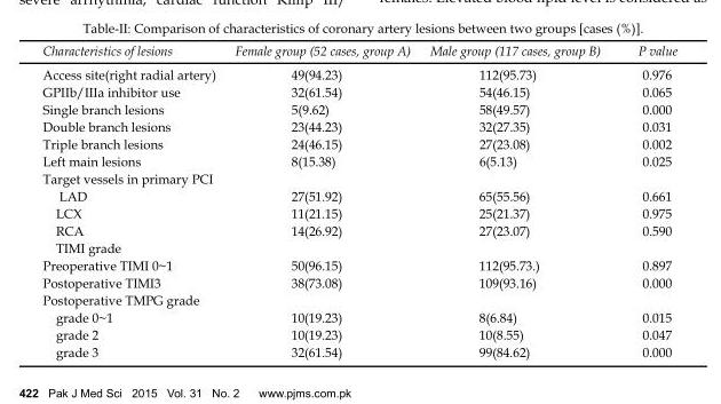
<table><thead><tr><td>Characteristics of lesions</td><td>Female group (52 cases, group A)</td><td>Male group (117 cases, group B)</td><td>P value</td></tr></thead><tbody><tr><td>Access site(right radial artery)</td><td>49(94.23)</td><td>112(95.73)</td><td>0.976</td></tr><tr><td>GPIIb/IIIa inhibitor use</td><td>32(61.54)</td><td>54(46.15)</td><td>0.065</td></tr><tr><td>Single branch lesions</td><td>5(9.62)</td><td>58(49.57)</td><td>0.000</td></tr><tr><td>Double branch lesions</td><td>23(44.23)</td><td>32(27.35)</td><td>0.031</td></tr><tr><td>Triple branch lesions</td><td>24(46.15)</td><td>27(23.08)</td><td>0.002</td></tr><tr><td>Left main lesions</td><td>8(15.38)</td><td>6(5.13)</td><td>0.025</td></tr><tr><td colspan="4">Target vessels in primary PCI</td></tr><tr><td>LAD</td><td>27(51.92)</td><td>65(55.56)</td><td>0.661</td></tr><tr><td>LCX</td><td>11(21.15)</td><td>25(21.37)</td><td>0.975</td></tr><tr><td>RCA</td><td>14(26.92)</td><td>27(23.07)</td><td>0.590</td></tr><tr><td colspan="4">TIMI grade</td></tr><tr><td>Preoperative TIMI 0~1</td><td>50(96.15)</td><td>112(95.73.)</td><td>0.897</td></tr><tr><td>Postoperative TIMI3</td><td>38(73.08)</td><td>109(93.16)</td><td>0.000</td></tr><tr><td colspan="4">Postoperative TMPG grade</td></tr><tr><td>grade 0~1</td><td>10(19.23)</td><td>8(6.84)</td><td>0.015</td></tr><tr><td>grade 2</td><td>10(19.23)</td><td>10(8.55)</td><td>0.047</td></tr><tr><td>grade 3</td><td>32(61.54)</td><td>99(84.62)</td><td>0.000</td></tr></tbody></table>